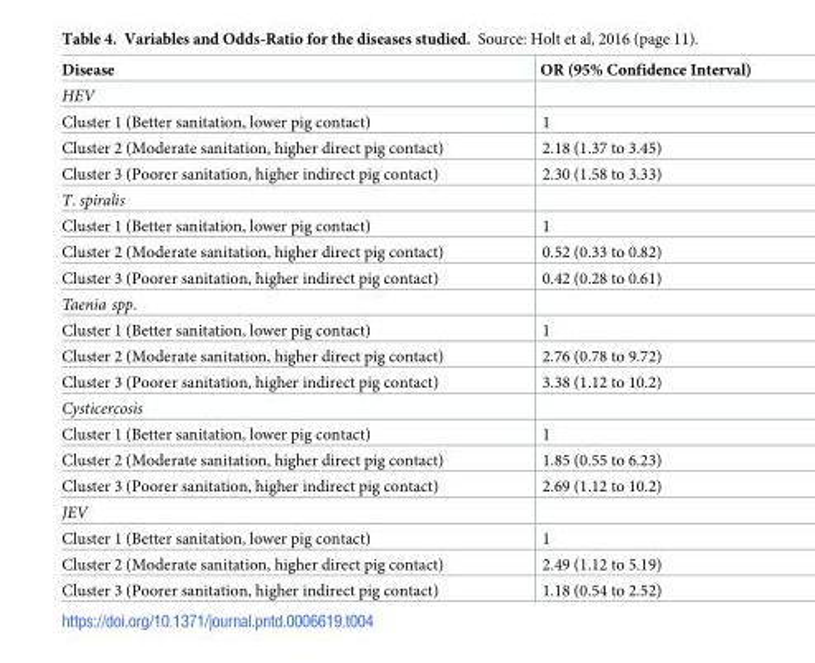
<table><thead><tr><td>Disease</td><td>OR (95% Confidence Interval)</td></tr></thead><tbody><tr><td colspan="2">HEV</td></tr><tr><td>Cluster 1 (Better sanitation, lower pig contact)</td><td>1</td></tr><tr><td>Cluster 2 (Moderate sanitation, higher direct pig contact)</td><td>2.18 (1.37 to 3.45)</td></tr><tr><td>Cluster 3 (Poorer sanitation, higher indirect pig contact)</td><td>2.30 (1.58 to 3.33)</td></tr><tr><td colspan="2">T. spiralis</td></tr><tr><td>Cluster 1 (Better sanitation, lower pig contact)</td><td>1</td></tr><tr><td>Cluster 2 (Moderate sanitation, higher direct pig contact)</td><td>0.52 (0.33 to 0.82)</td></tr><tr><td>Cluster 3 (Poorer sanitation, higher indirect pig contact)</td><td>0.42 (0.28 to 0.61)</td></tr><tr><td colspan="2">Taenia spp.</td></tr><tr><td>Cluster 1 (Better sanitation, lower pig contact)</td><td>1</td></tr><tr><td>Cluster 2 (Moderate sanitation, higher direct pig contact)</td><td>2.76 (0.78 to 9.72)</td></tr><tr><td>Cluster 3 (Poorer sanitation, higher indirect pig contact)</td><td>3.38 (1.12 to 10.2)</td></tr><tr><td colspan="2">Cysticercosis</td></tr><tr><td>Cluster 1 (Better sanitation, lower pig contact)</td><td>1</td></tr><tr><td>Cluster 2 (Moderate sanitation, higher direct pig contact)</td><td>1.85 (0.55 to 6.23)</td></tr><tr><td>Cluster 3 (Poorer sanitation, higher indirect pig contact)</td><td>2.69 (1.12 to 10.2)</td></tr><tr><td colspan="2">JEV</td></tr><tr><td>Cluster 1 (Better sanitation, lower pig contact)</td><td>1</td></tr><tr><td>Cluster 2 (Moderate sanitation, higher direct pig contact)</td><td>2.49 (1.12 to 5.19)</td></tr><tr><td>Cluster 3 (Poorer sanitation, higher indirect pig contact)</td><td>1.18 (0.54 to 2.52)</td></tr></tbody></table>